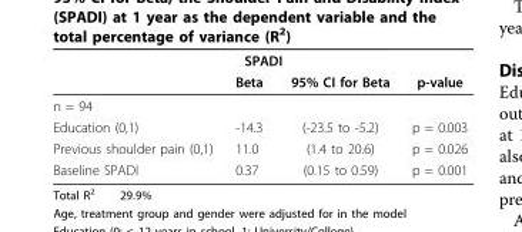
<table><thead><tr><td colspan="4">SPADI</td></tr><tr><td></td><td>Beta</td><td>95% CI for Beta</td><td>p-value</td></tr></thead><tbody><tr><td colspan="4">n = 94</td></tr><tr><td>Education (0,1)</td><td>-14.3</td><td>(-23.5 to -5.2)</td><td>p = 0.003</td></tr><tr><td>Previous shoulder pain (0,1)</td><td>11.0</td><td>(1.4 to 20.6)</td><td>p = 0.026</td></tr><tr><td>Baseline SPADI</td><td>0.37</td><td>(0.15 to 0.59)</td><td>p = 0.001</td></tr></tbody></table>